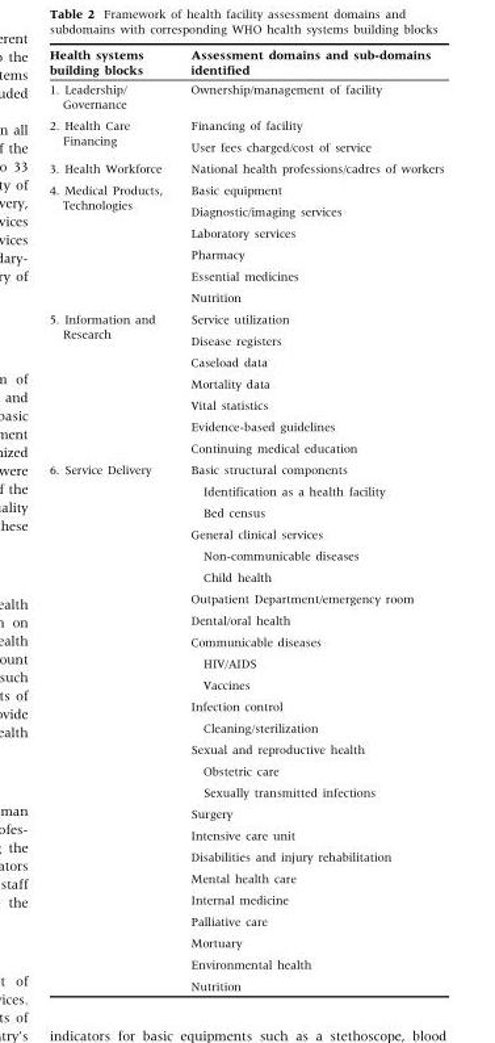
<table><thead><tr><td>Health systems building blocks</td><td>Assessment domains and sub-domains identified</td></tr></thead><tbody><tr><td>1. Leadership/ Governance</td><td>Ownership/management of facility</td></tr><tr><td rowspan="2">2. Health Care Financing</td><td>Financing of facility</td></tr><tr><td>User fees charged/cost of service</td></tr><tr><td>3. Health Workforce</td><td>National health professions/cadres of workers</td></tr><tr><td rowspan="6">4. Medical Products, Technologies</td><td>Basic equipment</td></tr><tr><td>Diagnostic/imaging services</td></tr><tr><td>Laboratory services</td></tr><tr><td>Pharmacy</td></tr><tr><td>Essential medicines</td></tr><tr><td>Nutrition</td></tr><tr><td rowspan="7">5. Information and Research</td><td>Service utilization</td></tr><tr><td>Disease registers</td></tr><tr><td>Caseload data</td></tr><tr><td>Mortality data</td></tr><tr><td>Vital statistics</td></tr><tr><td>Evidence-based guidelines</td></tr><tr><td>Continuing medical education</td></tr><tr><td rowspan="25">6. Service Delivery</td><td>Basic structural components</td></tr><tr><td>Identification as a health facility</td></tr><tr><td>Bed census</td></tr><tr><td>General clinical services</td></tr><tr><td>Non-communicable diseases</td></tr><tr><td>Child health</td></tr><tr><td>Outpatient Department/emergency room</td></tr><tr><td>Dental/oral health</td></tr><tr><td>Communicable diseases</td></tr><tr><td>HIV/AIDS</td></tr><tr><td>Vaccines</td></tr><tr><td>Infection control</td></tr><tr><td>Cleaning/sterilization</td></tr><tr><td>Sexual and reproductive health</td></tr><tr><td>Obstetric care</td></tr><tr><td>Sexually transmitted infections</td></tr><tr><td>Surgery</td></tr><tr><td>Intensive care unit</td></tr><tr><td>Disabilities and injury rehabilitation</td></tr><tr><td>Mental health care</td></tr><tr><td>Internal medicine</td></tr><tr><td>Palliative care</td></tr><tr><td>Mortuary</td></tr><tr><td>Environmental health</td></tr><tr><td>Nutrition</td></tr></tbody></table>